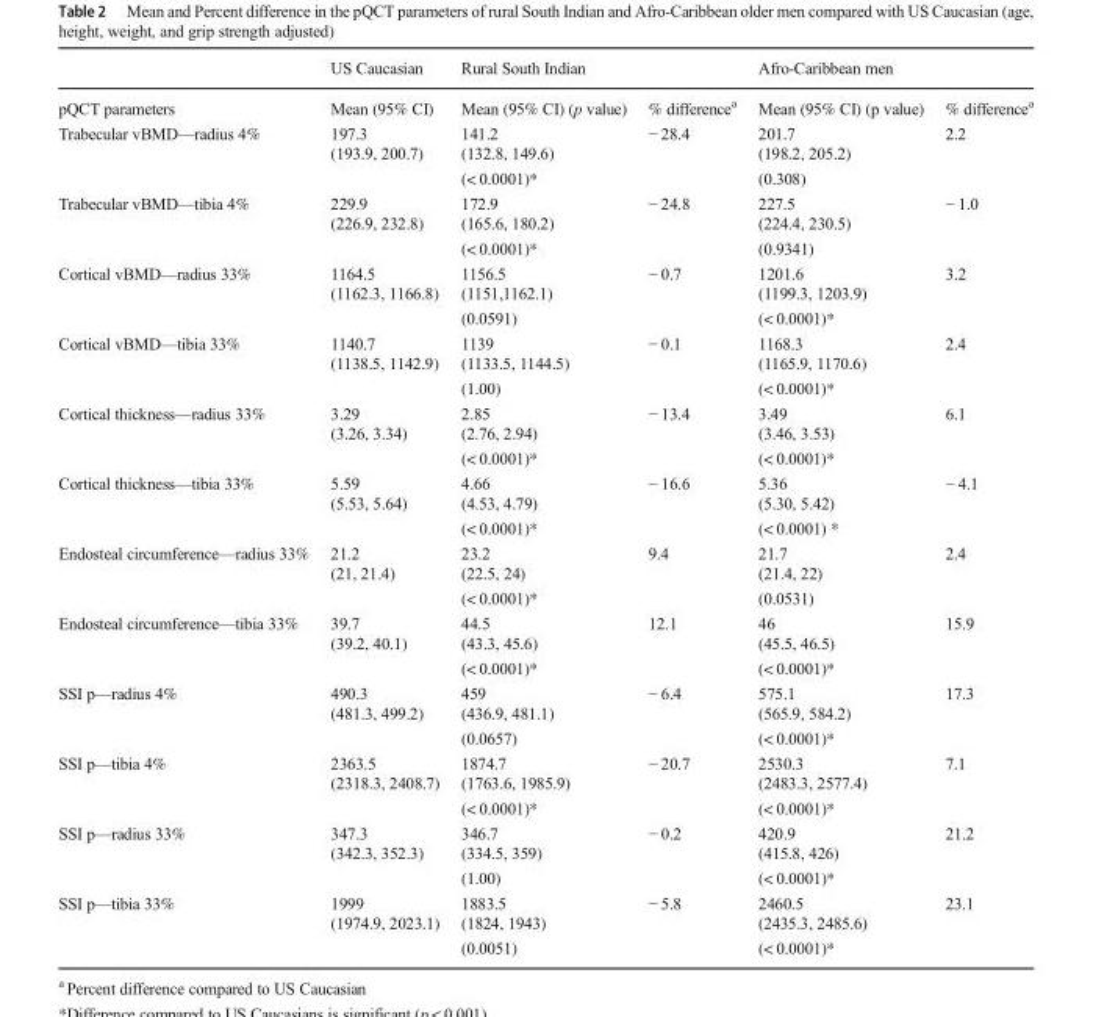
<table><thead><tr><td rowspan="2">pQCT parameters</td><td rowspan="2">US Caucasian Mean (95% CI)</td><td colspan="2">Rural South Indian</td><td colspan="2">Afro-Caribbean men</td></tr><tr><td>Mean (95% CI) (p value)</td><td>% difference<sup>a</sup></td><td>Mean (95% CI) (p value)</td><td>% difference<sup>a</sup></td></tr></thead><tbody><tr><td rowspan="3">Trabecular vBMD—radius 4%</td><td>197.3</td><td>141.2</td><td rowspan="3">− 28.4</td><td>201.7</td><td rowspan="3">2.2</td></tr><tr><td rowspan="2">(193.9, 200.7)</td><td>(132.8, 149.6)</td><td>(198.2, 205.2)</td></tr><tr><td>(&lt; 0.0001)*</td><td>(0.308)</td></tr><tr><td rowspan="3">Trabecular vBMD—tibia 4%</td><td>229.9</td><td>172.9</td><td rowspan="3">− 24.8</td><td>227.5</td><td rowspan="3">− 1.0</td></tr><tr><td rowspan="2">(226.9, 232.8)</td><td>(165.6, 180.2)</td><td>(224.4, 230.5)</td></tr><tr><td>(&lt; 0.0001)*</td><td>(0.9341)</td></tr><tr><td rowspan="3">Cortical vBMD—radius 33%</td><td>1164.5</td><td>1156.5</td><td rowspan="3">− 0.7</td><td>1201.6</td><td rowspan="3">3.2</td></tr><tr><td rowspan="2">(1162.3, 1166.8)</td><td>(1151,1162.1)</td><td>(1199.3, 1203.9)</td></tr><tr><td>(0.0591)</td><td>(&lt; 0.0001)*</td></tr><tr><td rowspan="3">Cortical vBMD—tibia 33%</td><td>1140.7</td><td>1139</td><td rowspan="3">− 0.1</td><td>1168.3</td><td rowspan="3">2.4</td></tr><tr><td rowspan="2">(1138.5, 1142.9)</td><td>(1133.5, 1144.5)</td><td>(1165.9, 1170.6)</td></tr><tr><td>(1.00)</td><td>(&lt; 0.0001)*</td></tr><tr><td rowspan="3">Cortical thickness—radius 33%</td><td>3.29</td><td>2.85</td><td rowspan="3">− 13.4</td><td>3.49</td><td rowspan="3">6.1</td></tr><tr><td rowspan="2">(3.26, 3.34)</td><td>(2.76, 2.94)</td><td>(3.46, 3.53)</td></tr><tr><td>(&lt; 0.0001)*</td><td>(&lt; 0.0001)*</td></tr><tr><td rowspan="3">Cortical thickness—tibia 33%</td><td>5.59</td><td>4.66</td><td rowspan="3">− 16.6</td><td>5.36</td><td rowspan="3">− 4.1</td></tr><tr><td rowspan="2">(5.53, 5.64)</td><td>(4.53, 4.79)</td><td>(5.30, 5.42)</td></tr><tr><td>(&lt; 0.0001)*</td><td>(&lt; 0.0001) *</td></tr><tr><td rowspan="3">Endosteal circumference—radius 33%</td><td>21.2</td><td>23.2</td><td rowspan="3">9.4</td><td>21.7</td><td rowspan="3">2.4</td></tr><tr><td rowspan="2">(21, 21.4)</td><td>(22.5, 24)</td><td>(21.4, 22)</td></tr><tr><td>(&lt; 0.0001)*</td><td>(0.0531)</td></tr><tr><td rowspan="3">Endosteal circumference—tibia 33%</td><td>39.7</td><td>44.5</td><td rowspan="3">12.1</td><td>46</td><td rowspan="3">15.9</td></tr><tr><td rowspan="2">(39.2, 40.1)</td><td>(43.3, 45.6)</td><td>(45.5, 46.5)</td></tr><tr><td>(&lt; 0.0001)*</td><td>(&lt; 0.0001)*</td></tr><tr><td rowspan="3">SSI p—radius 4%</td><td>490.3</td><td>459</td><td rowspan="3">− 6.4</td><td>575.1</td><td rowspan="3">17.3</td></tr><tr><td rowspan="2">(481.3, 499.2)</td><td>(436.9, 481.1)</td><td>(565.9, 584.2)</td></tr><tr><td>(0.0657)</td><td>(&lt; 0.0001)*</td></tr><tr><td rowspan="3">SSI p—tibia 4%</td><td>2363.5</td><td>1874.7</td><td rowspan="3">− 20.7</td><td>2530.3</td><td rowspan="3">7.1</td></tr><tr><td rowspan="2">(2318.3, 2408.7)</td><td>(1763.6, 1985.9)</td><td>(2483.3, 2577.4)</td></tr><tr><td>(&lt; 0.0001)*</td><td>(&lt; 0.0001)*</td></tr><tr><td rowspan="3">SSI p—radius 33%</td><td>347.3</td><td>346.7</td><td rowspan="3">− 0.2</td><td>420.9</td><td rowspan="3">21.2</td></tr><tr><td rowspan="2">(342.3, 352.3)</td><td>(334.5, 359)</td><td>(415.8, 426)</td></tr><tr><td>(1.00)</td><td>(&lt; 0.0001)*</td></tr><tr><td rowspan="3">SSI p—tibia 33%</td><td>1999</td><td>1883.5</td><td rowspan="3">− 5.8</td><td>2460.5</td><td rowspan="3">23.1</td></tr><tr><td rowspan="2">(1974.9, 2023.1)</td><td>(1824, 1943)</td><td>(2435.3, 2485.6)</td></tr><tr><td>(0.0051)</td><td>(&lt; 0.0001)*</td></tr></tbody></table>